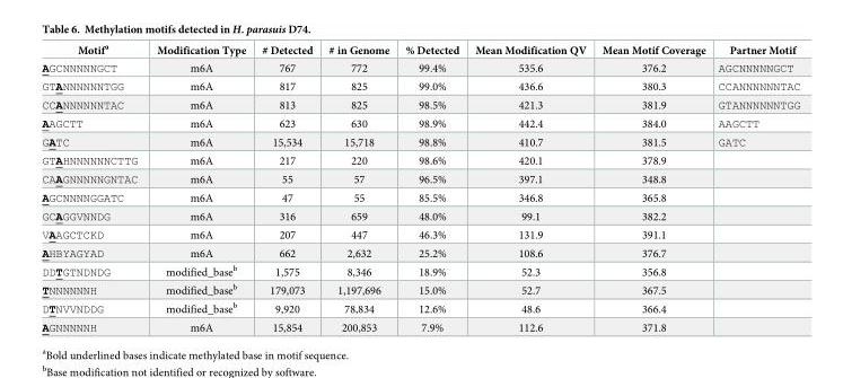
<table><thead><tr><td>Motif<sup>a</sup></td><td>Modification Type</td><td># Detected</td><td># in Genome</td><td>% Detected</td><td>Mean Modification QV</td><td>Mean Motif Coverage</td><td>Partner Motif</td></tr></thead><tbody><tr><td>AGCNNNNNGCT</td><td>m6A</td><td>767</td><td>772</td><td>99.4%</td><td>535.6</td><td>376.2</td><td>AGCNNNNNGCT</td></tr><tr><td>GTANNNNNNTGG</td><td>m6A</td><td>817</td><td>825</td><td>99.0%</td><td>436.6</td><td>380.3</td><td>CCANNNNNNTAC</td></tr><tr><td>CCANNNNNNTAC</td><td>m6A</td><td>813</td><td>825</td><td>98.5%</td><td>421.3</td><td>381.9</td><td>GTANNNNNNTGG</td></tr><tr><td>AAGCTT</td><td>m6A</td><td>623</td><td>630</td><td>98.9%</td><td>442.4</td><td>384.0</td><td>AAGCTT</td></tr><tr><td>GATC</td><td>m6A</td><td>15,534</td><td>15,718</td><td>98.8%</td><td>410.7</td><td>381.5</td><td>GATC</td></tr><tr><td>GTAHNNNNNNCTTG</td><td>m6A</td><td>217</td><td>220</td><td>98.6%</td><td>420.1</td><td>378.9</td><td></td></tr><tr><td>CAAGNNNNNGNTAC</td><td>m6A</td><td>55</td><td>57</td><td>96.5%</td><td>397.1</td><td>348.8</td><td></td></tr><tr><td>AGCNNNNGGATC</td><td>m6A</td><td>47</td><td>55</td><td>85.5%</td><td>346.8</td><td>365.8</td><td></td></tr><tr><td>GCAGGVNNDG</td><td>m6A</td><td>316</td><td>659</td><td>48.0%</td><td>99.1</td><td>382.2</td><td></td></tr><tr><td>VAAGCTCKD</td><td>m6A</td><td>207</td><td>447</td><td>46.3%</td><td>131.9</td><td>391.1</td><td></td></tr><tr><td>AHBYAGYAD</td><td>m6A</td><td>662</td><td>2,632</td><td>25.2%</td><td>108.6</td><td>376.7</td><td></td></tr><tr><td>DDTGTNDNDG</td><td>modified_base<sup>b</sup></td><td>1,575</td><td>8,346</td><td>18.9%</td><td>52.3</td><td>356.8</td><td></td></tr><tr><td>TNNNNNNH</td><td>modified_base<sup>b</sup></td><td>179,073</td><td>1,197,696</td><td>15.0%</td><td>52.7</td><td>367.5</td><td></td></tr><tr><td>DTNVVNDDG</td><td>modified_base<sup>b</sup></td><td>9,920</td><td>78,834</td><td>12.6%</td><td>48.6</td><td>366.4</td><td></td></tr><tr><td>AGNNNNNH</td><td>m6A</td><td>15,854</td><td>200,853</td><td>7.9%</td><td>112.6</td><td>371.8</td><td></td></tr></tbody></table>